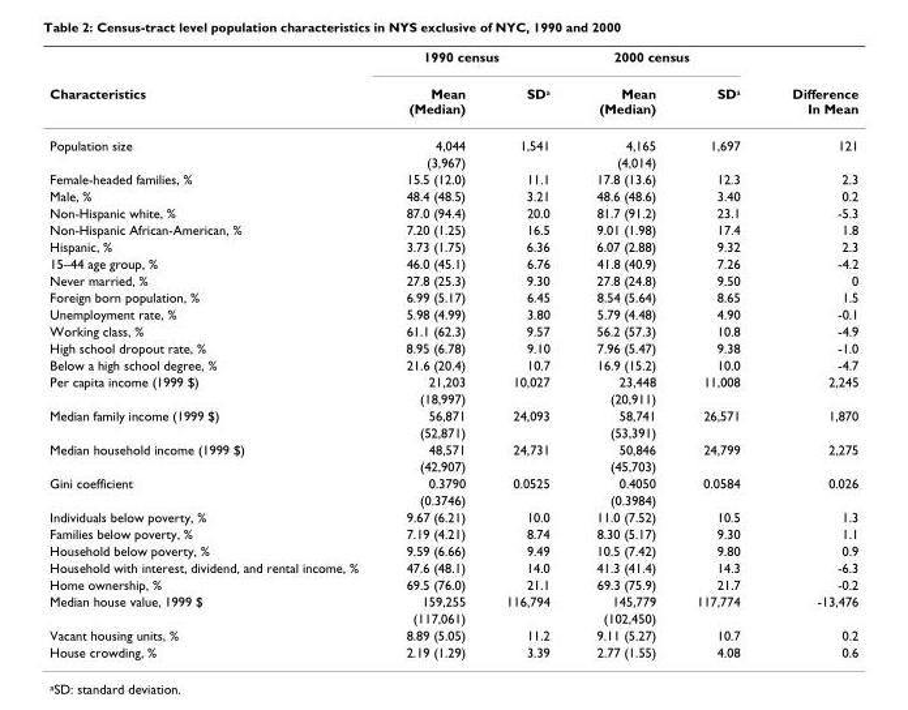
<table><thead><tr><td rowspan="2">Characteristics</td><td colspan="2">1990 census</td><td colspan="2">2000 census</td><td rowspan="2">Difference In Mean</td></tr><tr><td>Mean (Median)</td><td>SD<sup>a</sup></td><td>Mean (Median)</td><td>SD<sup>a</sup></td></tr></thead><tbody><tr><td rowspan="2">Population size</td><td>4,044</td><td>1,541</td><td>4,165</td><td>1,697</td><td>121</td></tr><tr><td>(3,967)</td><td></td><td>(4,014)</td><td></td><td></td></tr><tr><td>Female-headed families, %</td><td>15.5 (12.0)</td><td>11.1</td><td>17.8 (13.6)</td><td>12.3</td><td>2.3</td></tr><tr><td>Male, %</td><td>48.4 (48.5)</td><td>3.21</td><td>48.6 (48.6)</td><td>3.40</td><td>0.2</td></tr><tr><td>Non-Hispanic white, %</td><td>87.0 (94.4)</td><td>20.0</td><td>81.7 (91.2)</td><td>23.1</td><td>-5.3</td></tr><tr><td>Non-Hispanic African-American, %</td><td>7.20 (1.25)</td><td>16.5</td><td>9.01 (1.98)</td><td>17.4</td><td>1.8</td></tr><tr><td>Hispanic, %</td><td>3.73 (1.75)</td><td>6.36</td><td>6.07 (2.88)</td><td>9.32</td><td>2.3</td></tr><tr><td>15–44 age group, %</td><td>46.0 (45.1)</td><td>6.76</td><td>41.8 (40.9)</td><td>7.26</td><td>-4.2</td></tr><tr><td>Never married, %</td><td>27.8 (25.3)</td><td>9.30</td><td>27.8 (24.8)</td><td>9.50</td><td>0</td></tr><tr><td>Foreign born population, %</td><td>6.99 (5.17)</td><td>6.45</td><td>8.54 (5.64)</td><td>8.65</td><td>1.5</td></tr><tr><td>Unemployment rate, %</td><td>5.98 (4.99)</td><td>3.80</td><td>5.79 (4.48)</td><td>4.90</td><td>-0.1</td></tr><tr><td>Working class, %</td><td>61.1 (62.3)</td><td>9.57</td><td>56.2 (57.3)</td><td>10.8</td><td>-4.9</td></tr><tr><td>High school dropout rate, %</td><td>8.95 (6.78)</td><td>9.10</td><td>7.96 (5.47)</td><td>9.38</td><td>-1.0</td></tr><tr><td>Below a high school degree, %</td><td>21.6 (20.4)</td><td>10.7</td><td>16.9 (15.2)</td><td>10.0</td><td>-4.7</td></tr><tr><td rowspan="2">Per capita income (1999 $)</td><td>21,203</td><td>10,027</td><td>23,448</td><td>11,008</td><td>2,245</td></tr><tr><td>(18,997)</td><td></td><td>(20,911)</td><td></td><td></td></tr><tr><td rowspan="2">Median family income (1999 $)</td><td>56,871</td><td>24,093</td><td>58,741</td><td>26,571</td><td>1,870</td></tr><tr><td>(52,871)</td><td></td><td>(53,391)</td><td></td><td></td></tr><tr><td rowspan="2">Median household income (1999 $)</td><td>48,571</td><td>24,731</td><td>50,846</td><td>24,799</td><td>2,275</td></tr><tr><td>(42,907)</td><td></td><td>(45,703)</td><td></td><td></td></tr><tr><td rowspan="2">Gini coefficient</td><td>0.3790</td><td>0.0525</td><td>0.4050</td><td>0.0584</td><td>0.026</td></tr><tr><td>(0.3746)</td><td></td><td>(0.3984)</td><td></td><td></td></tr><tr><td>Individuals below poverty, %</td><td>9.67 (6.21)</td><td>10.0</td><td>11.0 (7.52)</td><td>10.5</td><td>1.3</td></tr><tr><td>Families below poverty, %</td><td>7.19 (4.21)</td><td>8.74</td><td>8.30 (5.17)</td><td>9.30</td><td>1.1</td></tr><tr><td>Household below poverty, %</td><td>9.59 (6.66)</td><td>9.49</td><td>10.5 (7.42)</td><td>9.80</td><td>0.9</td></tr><tr><td>Household with interest, dividend, and rental income, %</td><td>47.6 (48.1)</td><td>14.0</td><td>41.3 (41.4)</td><td>14.3</td><td>-6.3</td></tr><tr><td>Home ownership, %</td><td>69.5 (76.0)</td><td>21.1</td><td>69.3 (75.9)</td><td>21.7</td><td>-0.2</td></tr><tr><td rowspan="2">Median house value, 1999 $</td><td>159,255</td><td>116,794</td><td>145,779</td><td>117,774</td><td>-13,476</td></tr><tr><td>(117,061)</td><td></td><td>(102,450)</td><td></td><td></td></tr><tr><td>Vacant housing units, %</td><td>8.89 (5.05)</td><td>11.2</td><td>9.11 (5.27)</td><td>10.7</td><td>0.2</td></tr><tr><td>House crowding, %</td><td>2.19 (1.29)</td><td>3.39</td><td>2.77 (1.55)</td><td>4.08</td><td>0.6</td></tr></tbody></table>